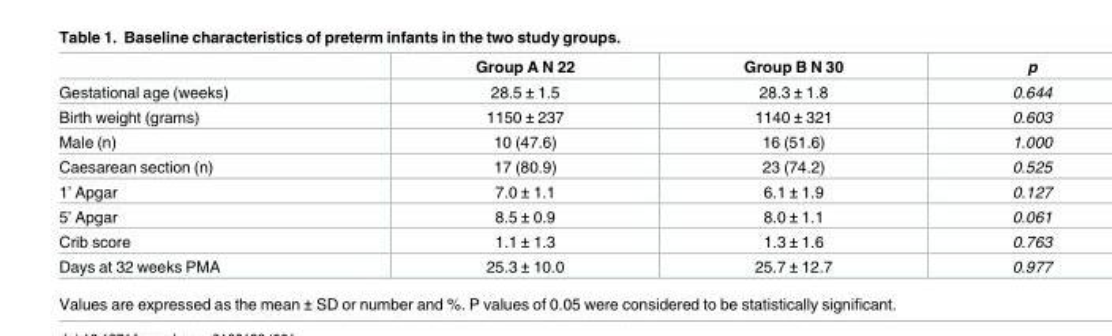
<table><thead><tr><td></td><td>Group A N 22</td><td>Group B N 30</td><td>p</td></tr></thead><tbody><tr><td>Gestational age (weeks)</td><td>28.5 ± 1.5</td><td>28.3 ± 1.8</td><td>0.644</td></tr><tr><td>Birth weight (grams)</td><td>1150 ± 237</td><td>1140 ± 321</td><td>0.603</td></tr><tr><td>Male (n)</td><td>10 (47.6)</td><td>16 (51.6)</td><td>1.000</td></tr><tr><td>Caesarean section (n)</td><td>17 (80.9)</td><td>23 (74.2)</td><td>0.525</td></tr><tr><td>1’ Apgar</td><td>7.0 ± 1.1</td><td>6.1 ± 1.9</td><td>0.127</td></tr><tr><td>5’ Apgar</td><td>8.5 ± 0.9</td><td>8.0 ± 1.1</td><td>0.061</td></tr><tr><td>Crib score</td><td>1.1 ± 1.3</td><td>1.3 ± 1.6</td><td>0.763</td></tr><tr><td>Days at 32 weeks PMA</td><td>25.3 ± 10.0</td><td>25.7 ± 12.7</td><td>0.977</td></tr></tbody></table>